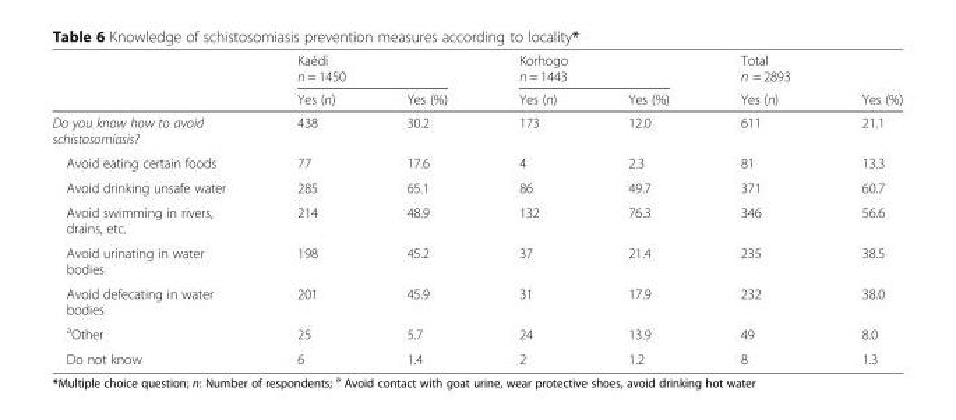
<table><thead><tr><td rowspan="2"></td><td colspan="2">Kaédi n = 1450</td><td colspan="2">Korhogo n = 1443</td><td rowspan="2">Total n = 2893 Yes (n)</td><td rowspan="2">Yes (%)</td></tr><tr><td>Yes (n)</td><td>Yes (%)</td><td>Yes (n)</td><td>Yes (%)</td></tr></thead><tbody><tr><td>Do you know how to avoid schistosomiasis?</td><td>438</td><td>30.2</td><td>173</td><td>12.0</td><td>611</td><td>21.1</td></tr><tr><td>Avoid eating certain foods</td><td>77</td><td>17.6</td><td>4</td><td>2.3</td><td>81</td><td>13.3</td></tr><tr><td>Avoid drinking unsafe water</td><td>285</td><td>65.1</td><td>86</td><td>49.7</td><td>371</td><td>60.7</td></tr><tr><td>Avoid swimming in rivers, drains, etc.</td><td>214</td><td>48.9</td><td>132</td><td>76.3</td><td>346</td><td>56.6</td></tr><tr><td>Avoid urinating in water bodies</td><td>198</td><td>45.2</td><td>37</td><td>21.4</td><td>235</td><td>38.5</td></tr><tr><td>Avoid defecating in water bodies</td><td>201</td><td>45.9</td><td>31</td><td>17.9</td><td>232</td><td>38.0</td></tr><tr><td><sup>a</sup>Other</td><td>25</td><td>5.7</td><td>24</td><td>13.9</td><td>49</td><td>8.0</td></tr><tr><td>Do not know</td><td>6</td><td>1.4</td><td>2</td><td>1.2</td><td>8</td><td>1.3</td></tr></tbody></table>